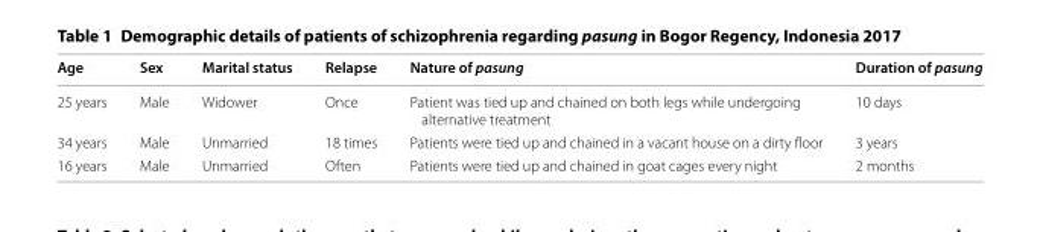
<table><thead><tr><td>Age</td><td>Sex</td><td>Marital status</td><td>Relapse</td><td>Nature of pasung</td><td>Duration of pasung</td></tr></thead><tbody><tr><td>25 years</td><td>Male</td><td>Widower</td><td>Once</td><td>Patient was tied up and chained on both legs while undergoing alternative treatment</td><td>10 days</td></tr><tr><td>34 years</td><td>Male</td><td>Unmarried</td><td>18 times</td><td>Patients were tied up and chained in a vacant house on a dirty floor</td><td>3 years</td></tr><tr><td>16 years</td><td>Male</td><td>Unmarried</td><td>Often</td><td>Patients were tied up and chained in goat cages every night</td><td>2 months</td></tr></tbody></table>